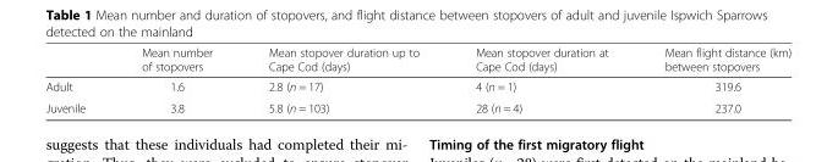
<table><thead><tr><td></td><td>Mean number of stopovers</td><td>Mean stopover duration up to Cape Cod (days)</td><td>Mean stopover duration at Cape Cod (days)</td><td>Mean flight distance (km) between stopovers</td></tr></thead><tbody><tr><td>Adult</td><td>1.6</td><td>2.8 (n = 17)</td><td>4 (n = 1)</td><td>319.6</td></tr><tr><td>Juvenile</td><td>3.8</td><td>5.8 (n = 103)</td><td>28 (n = 4)</td><td>237.0</td></tr></tbody></table>